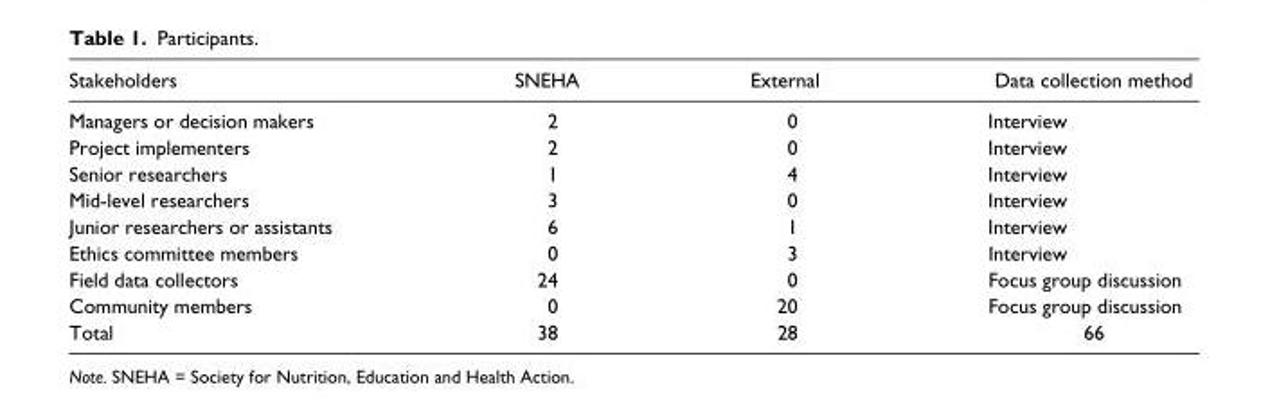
<table><thead><tr><td>Stakeholders</td><td>SNEHA</td><td>External</td><td>Data collection method</td></tr></thead><tbody><tr><td>Managers or decision makers</td><td>2</td><td>0</td><td>Interview</td></tr><tr><td>Project implementers</td><td>2</td><td>0</td><td>Interview</td></tr><tr><td>Senior researchers</td><td>1</td><td>4</td><td>Interview</td></tr><tr><td>Mid-level researchers</td><td>3</td><td>0</td><td>Interview</td></tr><tr><td>Junior researchers or assistants</td><td>6</td><td>1</td><td>Interview</td></tr><tr><td>Ethics committee members</td><td>0</td><td>3</td><td>Interview</td></tr><tr><td>Field data collectors</td><td>24</td><td>0</td><td>Focus group discussion</td></tr><tr><td>Community members</td><td>0</td><td>20</td><td>Focus group discussion</td></tr><tr><td>Total</td><td>38</td><td>28</td><td>66</td></tr></tbody></table>